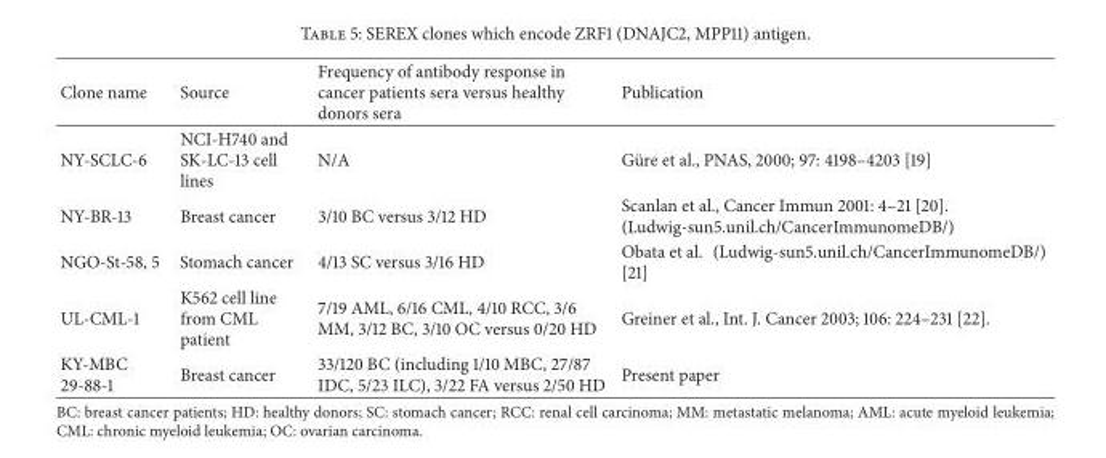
<table><thead><tr><td>Clone name</td><td>Source</td><td>Frequency of antibody response in cancer patients sera versus healthy donors sera</td><td>Publication</td></tr></thead><tbody><tr><td>NY-SCLC-6</td><td>NCI-H740 and SK-LC-13 cell lines</td><td>N/A</td><td>G¨ure et al., PNAS, 2000; 97: 4198–4203 [19]</td></tr><tr><td>NY-BR-13</td><td>Breast cancer</td><td>3/10 BC versus 3/12 HD</td><td>Scanlan et al., Cancer Immun 2001: 4–21 [20]. (Ludwig-sun5.unil.ch/CancerImmunomeDB/)</td></tr><tr><td>NGO-St-58, 5</td><td>Stomach cancer</td><td>4/13 SC versus 3/16 HD</td><td>Obata et al. (Ludwig-sun5.unil.ch/CancerImmunomeDB/) [21]</td></tr><tr><td>UL-CML-1</td><td>K562 cell line from CML patient</td><td>7/19 AML, 6/16 CML, 4/10 RCC, 3/6 MM, 3/12 BC, 3/10 OC versus 0/20 HD</td><td>Greiner et al., Int. J. Cancer 2003; 106: 224–231 [22].</td></tr><tr><td>KY-MBC 29-88-1</td><td>Breast cancer</td><td>33/120 BC (including 1/10 MBC, 27/87 IDC, 5/23 ILC), 3/22 FA versus 2/50 HD</td><td>Present paper</td></tr></tbody></table>